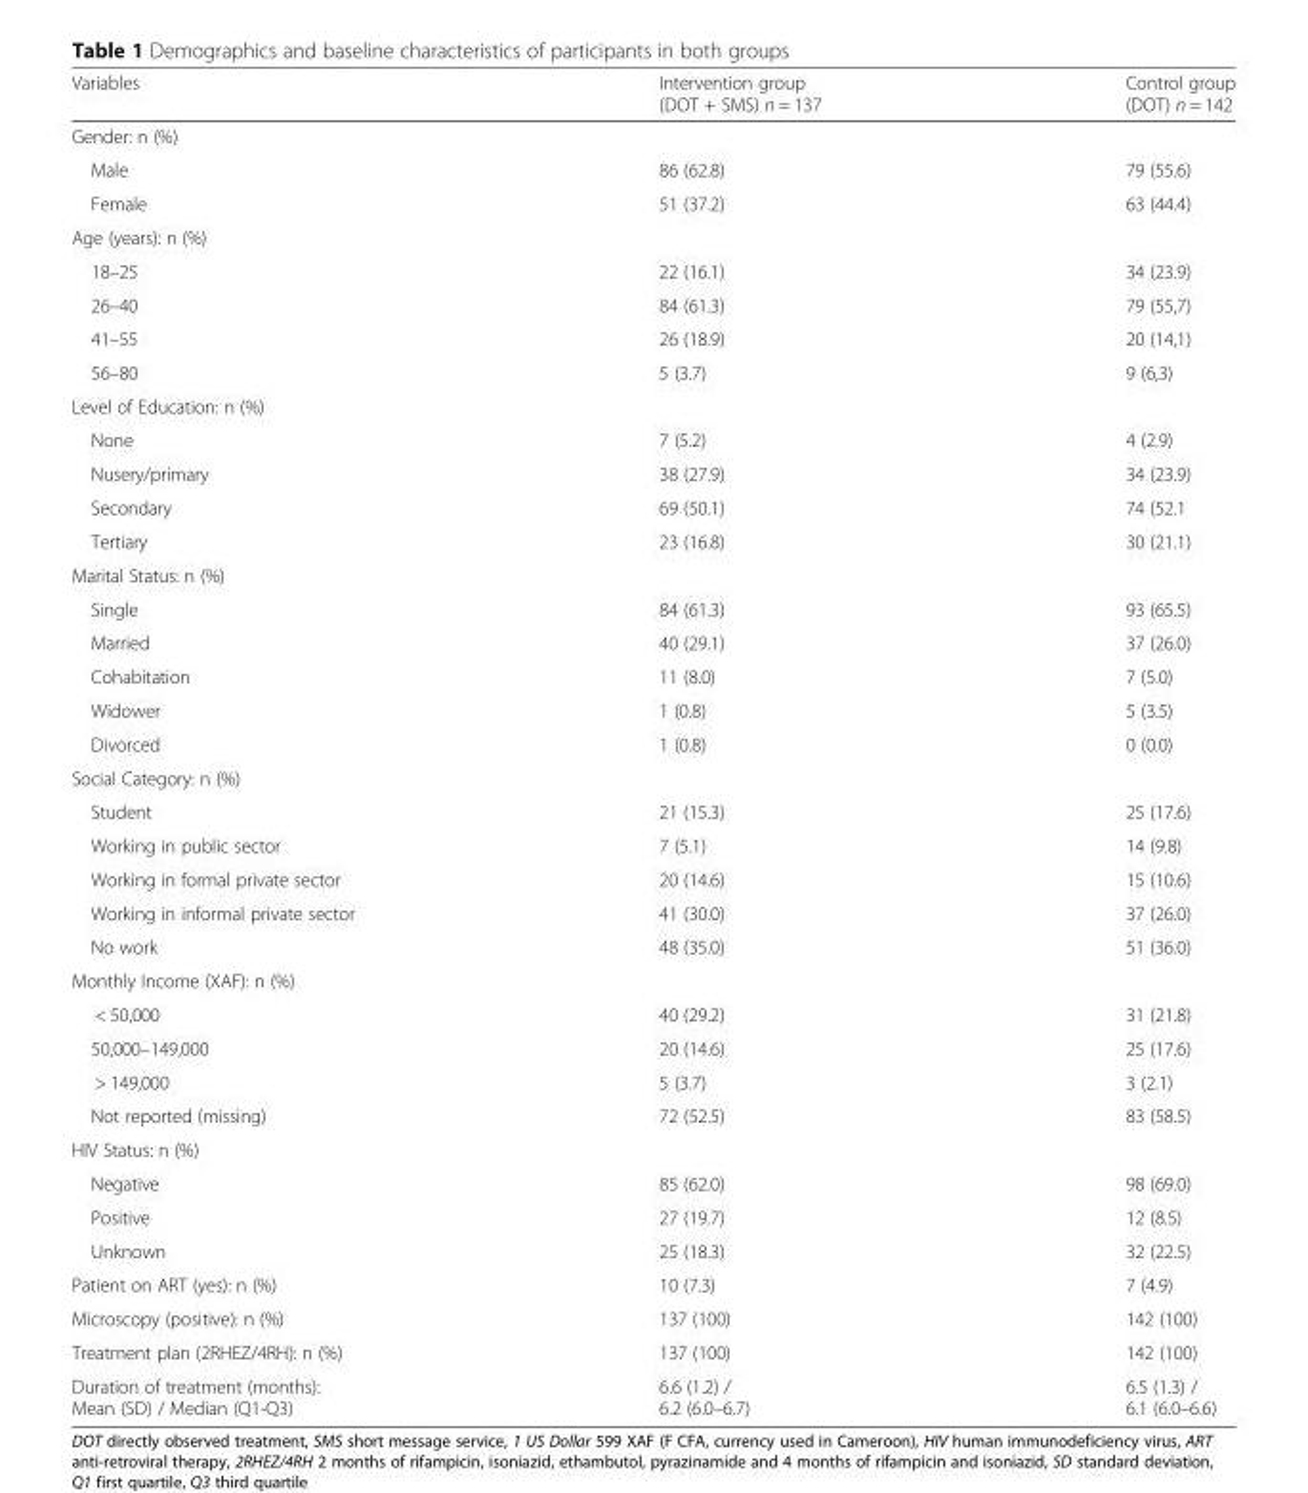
<table><thead><tr><td>Variables</td><td>Intervention group (DOT + SMS) n = 137</td><td>Control group (DOT) n = 142</td></tr></thead><tbody><tr><td colspan="3">Gender: n (%)</td></tr><tr><td>Male</td><td>86 (62.8)</td><td>79 (55.6)</td></tr><tr><td>Female</td><td>51 (37.2)</td><td>63 (44.4)</td></tr><tr><td colspan="3">Age (years): n (%)</td></tr><tr><td>18–25</td><td>22 (16.1)</td><td>34 (23.9)</td></tr><tr><td>26–40</td><td>84 (61.3)</td><td>79 (55,7)</td></tr><tr><td>41–55</td><td>26 (18.9)</td><td>20 (14,1)</td></tr><tr><td>56–80</td><td>5 (3.7)</td><td>9 (6,3)</td></tr><tr><td colspan="3">Level of Education: n (%)</td></tr><tr><td>None</td><td>7 (5.2)</td><td>4 (2.9)</td></tr><tr><td>Nusery/primary</td><td>38 (27.9)</td><td>34 (23.9)</td></tr><tr><td>Secondary</td><td>69 (50.1)</td><td>74 (52.1</td></tr><tr><td>Tertiary</td><td>23 (16.8)</td><td>30 (21.1)</td></tr><tr><td colspan="3">Marital Status: n (%)</td></tr><tr><td>Single</td><td>84 (61.3)</td><td>93 (65.5)</td></tr><tr><td>Married</td><td>40 (29.1)</td><td>37 (26.0)</td></tr><tr><td>Cohabitation</td><td>11 (8.0)</td><td>7 (5.0)</td></tr><tr><td>Widower</td><td>1 (0.8)</td><td>5 (3.5)</td></tr><tr><td>Divorced</td><td>1 (0.8)</td><td>0 (0.0)</td></tr><tr><td colspan="3">Social Category: n (%)</td></tr><tr><td>Student</td><td>21 (15.3)</td><td>25 (17.6)</td></tr><tr><td>Working in public sector</td><td>7 (5.1)</td><td>14 (9.8)</td></tr><tr><td>Working in formal private sector</td><td>20 (14.6)</td><td>15 (10.6)</td></tr><tr><td>Working in informal private sector</td><td>41 (30.0)</td><td>37 (26.0)</td></tr><tr><td>No work</td><td>48 (35.0)</td><td>51 (36.0)</td></tr><tr><td colspan="3">Monthly Income (XAF): n (%)</td></tr><tr><td>&lt; 50,000</td><td>40 (29.2)</td><td>31 (21.8)</td></tr><tr><td>50,000–149,000</td><td>20 (14.6)</td><td>25 (17.6)</td></tr><tr><td>&gt; 149,000</td><td>5 (3.7)</td><td>3 (2.1)</td></tr><tr><td>Not reported (missing)</td><td>72 (52.5)</td><td>83 (58.5)</td></tr><tr><td colspan="3">HIV Status: n (%)</td></tr><tr><td>Negative</td><td>85 (62.0)</td><td>98 (69.0)</td></tr><tr><td>Positive</td><td>27 (19.7)</td><td>12 (8.5)</td></tr><tr><td>Unknown</td><td>25 (18.3)</td><td>32 (22.5)</td></tr><tr><td>Patient on ART (yes): n (%)</td><td>10 (7.3)</td><td>7 (4.9)</td></tr><tr><td>Microscopy (positive): n (%)</td><td>137 (100)</td><td>142 (100)</td></tr><tr><td>Treatment plan (2RHEZ/4RH): n (%)</td><td>137 (100)</td><td>142 (100)</td></tr><tr><td>Duration of treatment (months): Mean (SD) / Median (Q1-Q3)</td><td>6.6 (1.2) / 6.2 (6.0–6.7)</td><td>6.5 (1.3) / 6.1 (6.0–6.6)</td></tr></tbody></table>